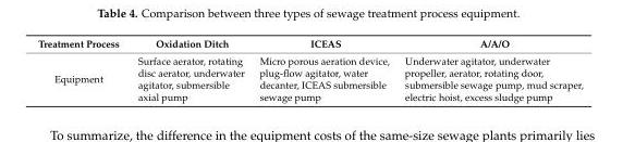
<table><thead><tr><td>Treatment Process</td><td>Oxidation Ditch</td><td>ICEAS</td><td>A/A/O</td></tr></thead><tbody><tr><td>Equipment</td><td>Surface aerator, rotating disc aerator, underwater agitator, submersible axial pump</td><td>Micro porous aeration device, plug-flow agitator, water decanter, ICEAS submersible sewage pump</td><td>Underwater agitator, underwater propeller, aerator, rotating door, submersible sewage pump, mud scraper, electric hoist, excess sludge pump</td></tr></tbody></table>